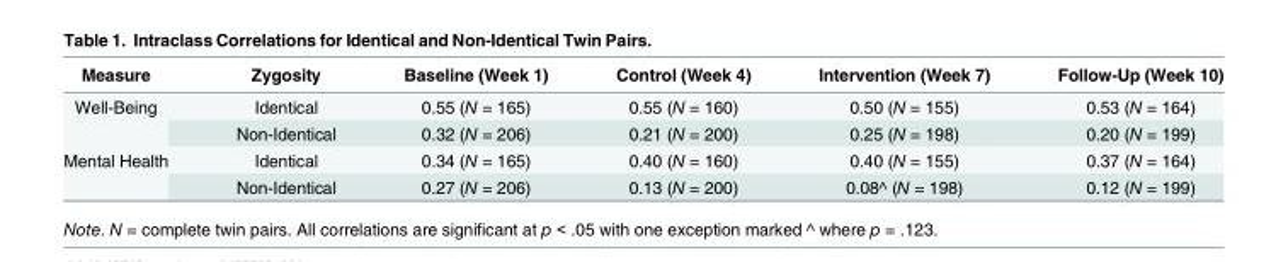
<table><thead><tr><td>Measure</td><td>Zygosity</td><td>Baseline (Week 1)</td><td>Control (Week 4)</td><td>Intervention (Week 7)</td><td>Follow-Up (Week 10)</td></tr></thead><tbody><tr><td rowspan="2">Well-Being</td><td>Identical</td><td>0.55 (N = 165)</td><td>0.55 (N = 160)</td><td>0.50 (N = 155)</td><td>0.53 (N = 164)</td></tr><tr><td>Non-Identical</td><td>0.32 (N = 206)</td><td>0.21 (N = 200)</td><td>0.25 (N = 198)</td><td>0.20 (N = 199)</td></tr><tr><td rowspan="2">Mental Health</td><td>Identical</td><td>0.34 (N = 165)</td><td>0.40 (N = 160)</td><td>0.40 (N = 155)</td><td>0.37 (N = 164)</td></tr><tr><td>Non-Identical</td><td>0.27 (N = 206)</td><td>0.13 (N = 200)</td><td>0.08^ (N = 198)</td><td>0.12 (N = 199)</td></tr></tbody></table>